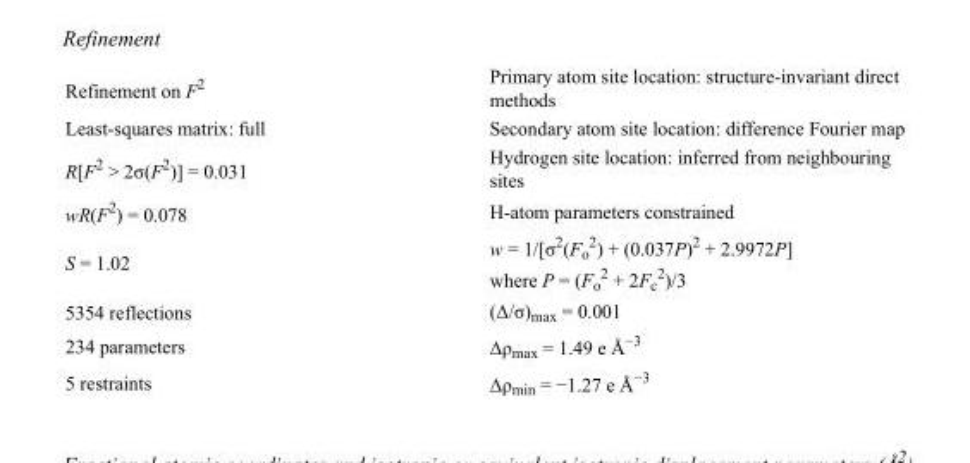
<table><tbody><tr><td>Refinement on F<sup>2</sup></td><td>Primary atom site location: structure-invariant direct methods</td></tr><tr><td>Least-squares matrix: full</td><td>Secondary atom site location: difference Fourier map</td></tr><tr><td>R[F<sup>2</sup> &gt; 2σ(F<sup>2</sup>)] = 0.031</td><td>Hydrogen site location: inferred from neighbouring sites</td></tr><tr><td>wR(F<sup>2</sup>) = 0.078</td><td>H-atom parameters constrained</td></tr><tr><td>S = 1.02</td><td>w = 1/[σ<sup>2</sup>(F<sub>o</sub> <sup>2</sup>) + (0.037P)<sup>2</sup> + 2.9972P] where P = (F<sub>o</sub> <sup>2</sup> + 2F<sub>c</sub> <sup>2</sup>)/3</td></tr><tr><td>5354 reflections</td><td>(Δ/σ)<sub>max</sub> = 0.001</td></tr><tr><td>234 parameters</td><td>Δρ<sub>max</sub> = 1.49 e Å<sup>−3</sup></td></tr><tr><td>5 restraints</td><td>Δρ<sub>min</sub> = −1.27 e Å<sup>−3</sup></td></tr></tbody></table>